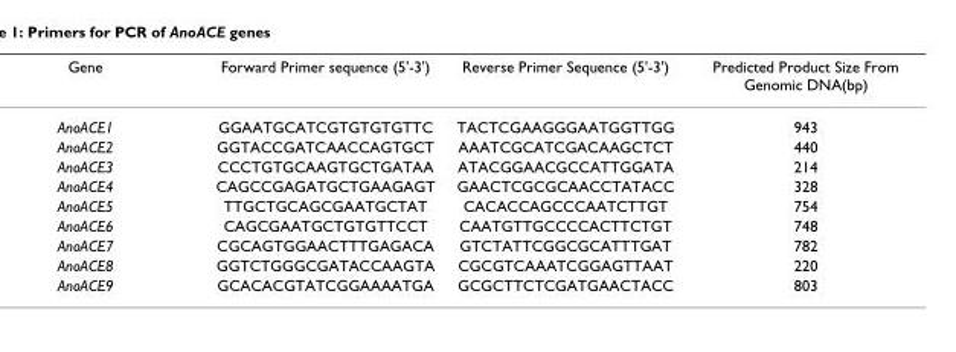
<table><thead><tr><td>Gene</td><td>Forward Primer sequence (5&#x27;-3&#x27;)</td><td>Reverse Primer Sequence (5&#x27;-3&#x27;)</td><td>Predicted Product Size From Genomic DNA(bp)</td></tr></thead><tbody><tr><td>AnoACE1</td><td>GGAATGCATCGTGTGTGTTC</td><td>TACTCGAAGGGAATGGTTGG</td><td>943</td></tr><tr><td>AnoACE2</td><td>GGTACCGATCAACCAGTGCT</td><td>AAATCGCATCGACAAGCTCT</td><td>440</td></tr><tr><td>AnoACE3</td><td>CCCTGTGCAAGTGCTGATAA</td><td>ATACGGAACGCCATTGGATA</td><td>214</td></tr><tr><td>AnoACE4</td><td>CAGCCGAGATGCTGAAGAGT</td><td>GAACTCGCGCAACCTATACC</td><td>328</td></tr><tr><td>AnoACE5</td><td>TTGCTGCAGCGAATGCTAT</td><td>CACACCAGCCCAATCTTGT</td><td>754</td></tr><tr><td>AnoACE6</td><td>CAGCGAATGCTGTGTTCCT</td><td>CAATGTTGCCCCACTTCTGT</td><td>748</td></tr><tr><td>AnoACE7</td><td>CGCAGTGGAACTTTGAGACA</td><td>GTCTATTCGGCGCATTTGAT</td><td>782</td></tr><tr><td>AnoACE8</td><td>GGTCTGGGCGATACCAAGTA</td><td>CGCGTCAAATCGGAGTTAAT</td><td>220</td></tr><tr><td>AnoACE9</td><td>GCACACGTATCGGAAAATGA</td><td>GCGCTTCTCGATGAACTACC</td><td>803</td></tr></tbody></table>